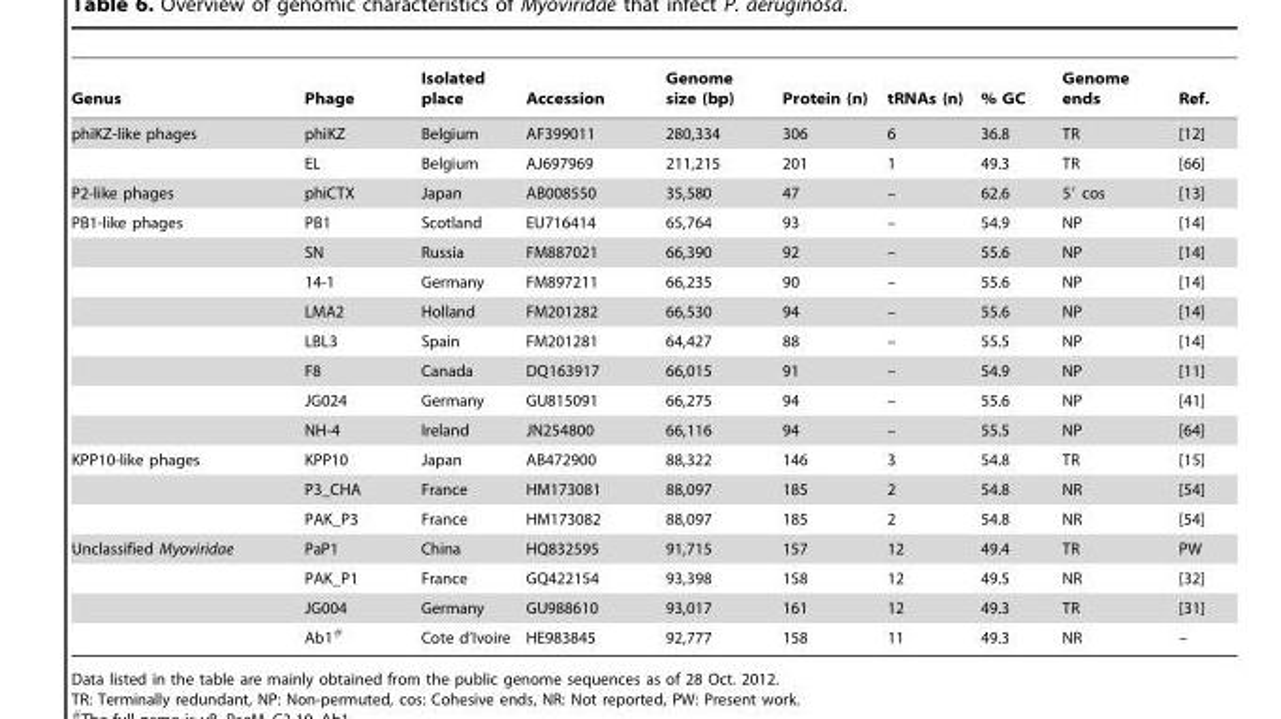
<table><thead><tr><td>Genus</td><td>Phage</td><td>Isolated place</td><td>Accession</td><td>Genome size (bp)</td><td>Protein (n)</td><td>tRNAs (n)</td><td>% GC</td><td>Genome ends</td><td>Ref.</td></tr></thead><tbody><tr><td rowspan="2">phiKZ-like phages</td><td>phiKZ</td><td>Belgium</td><td>AF399011</td><td>280,334</td><td>306</td><td>6</td><td>36.8</td><td>TR</td><td>[12]</td></tr><tr><td>EL</td><td>Belgium</td><td>AJ697969</td><td>211,215</td><td>201</td><td>1</td><td>49.3</td><td>TR</td><td>[66]</td></tr><tr><td>P2-like phages</td><td>phiCTX</td><td>Japan</td><td>AB008550</td><td>35,580</td><td>47</td><td>–</td><td>62.6</td><td>5′ cos</td><td>[13]</td></tr><tr><td rowspan="8">PB1-like phages</td><td>PB1</td><td>Scotland</td><td>EU716414</td><td>65,764</td><td>93</td><td>–</td><td>54.9</td><td>NP</td><td>[14]</td></tr><tr><td>SN</td><td>Russia</td><td>FM887021</td><td>66,390</td><td>92</td><td>–</td><td>55.6</td><td>NP</td><td>[14]</td></tr><tr><td>14-1</td><td>Germany</td><td>FM897211</td><td>66,235</td><td>90</td><td>–</td><td>55.6</td><td>NP</td><td>[14]</td></tr><tr><td>LMA2</td><td>Holland</td><td>FM201282</td><td>66,530</td><td>94</td><td>–</td><td>55.6</td><td>NP</td><td>[14]</td></tr><tr><td>LBL3</td><td>Spain</td><td>FM201281</td><td>64,427</td><td>88</td><td>–</td><td>55.5</td><td>NP</td><td>[14]</td></tr><tr><td>F8</td><td>Canada</td><td>DQ163917</td><td>66,015</td><td>91</td><td>–</td><td>54.9</td><td>NP</td><td>[11]</td></tr><tr><td>JG024</td><td>Germany</td><td>GU815091</td><td>66,275</td><td>94</td><td>–</td><td>55.6</td><td>NP</td><td>[41]</td></tr><tr><td>NH-4</td><td>Ireland</td><td>JN254800</td><td>66,116</td><td>94</td><td>–</td><td>55.5</td><td>NP</td><td>[64]</td></tr><tr><td rowspan="3">KPP10-like phages</td><td>KPP10</td><td>Japan</td><td>AB472900</td><td>88,322</td><td>146</td><td>3</td><td>54.8</td><td>TR</td><td>[15]</td></tr><tr><td>P3_CHA</td><td>France</td><td>HM173081</td><td>88,097</td><td>185</td><td>2</td><td>54.8</td><td>NR</td><td>[54]</td></tr><tr><td>PAK_P3</td><td>France</td><td>HM173082</td><td>88,097</td><td>185</td><td>2</td><td>54.8</td><td>NR</td><td>[54]</td></tr><tr><td rowspan="4">Unclassified Myoviridae</td><td>PaP1</td><td>China</td><td>HQ832595</td><td>91,715</td><td>157</td><td>12</td><td>49.4</td><td>TR</td><td>PW</td></tr><tr><td>PAK_P1</td><td>France</td><td>GQ422154</td><td>93,398</td><td>158</td><td>12</td><td>49.5</td><td>NR</td><td>[32]</td></tr><tr><td>JG004</td><td>Germany</td><td>GU988610</td><td>93,017</td><td>161</td><td>12</td><td>49.3</td><td>TR</td><td>[31]</td></tr><tr><td>Ab1#</td><td>Cote d’Ivoire</td><td>HE983845</td><td>92,777</td><td>158</td><td>11</td><td>49.3</td><td>NR</td><td>–</td></tr></tbody></table>